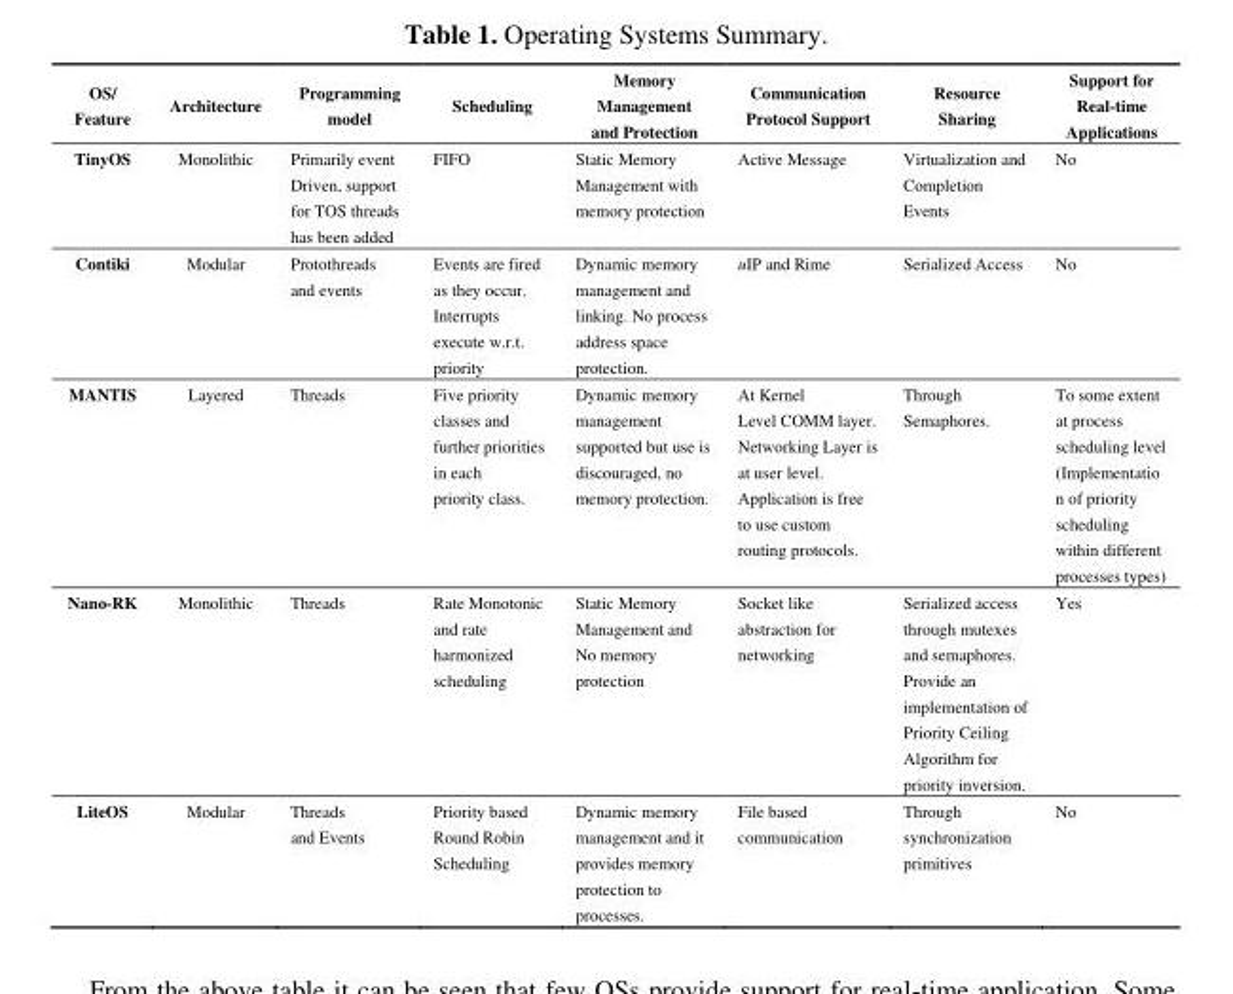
<table><thead><tr><td>OS/ Feature</td><td>Architecture</td><td>Programming model</td><td>Scheduling</td><td>Memory Management and Protection</td><td>Communication Protocol Support</td><td>Resource Sharing</td><td>Support for Real-time Applications</td></tr></thead><tbody><tr><td>TinyOS</td><td>Monolithic</td><td>Primarily event Driven, support for TOS threads has been added</td><td>FIFO</td><td>Static Memory Management with memory protection</td><td>Active Message</td><td>Virtualization and Completion Events</td><td>No</td></tr><tr><td>Contiki</td><td>Modular</td><td>Protothreads and events</td><td>Events are fired as they occur. Interrupts execute w.r.t. priority</td><td>Dynamic memory management and linking. No process address space protection.</td><td>uIP and Rime</td><td>Serialized Access</td><td>No</td></tr><tr><td>MANTIS</td><td>Layered</td><td>Threads</td><td>Five priority classes and further priorities in each priority class.</td><td>Dynamic memory management supported but use is discouraged, no memory protection.</td><td>At Kernel Level COMM layer. Networking Layer is at user level. Application is free to use custom routing protocols.</td><td>Through Semaphores.</td><td>To some extent at process scheduling level (Implementatio n of priority scheduling within different processes types)</td></tr><tr><td>Nano-RK</td><td>Monolithic</td><td>Threads</td><td>Rate Monotonic and rate harmonized scheduling</td><td>Static Memory Management and No memory protection</td><td>Socket like abstraction for networking</td><td>Serialized access through mutexes and semaphores. Provide an implementation of Priority Ceiling Algorithm for priority inversion.</td><td>Yes</td></tr><tr><td>LiteOS</td><td>Modular</td><td>Threads and Events</td><td>Priority based Round Robin Scheduling</td><td>Dynamic memory management and it provides memory protection to processes.</td><td>File based communication</td><td>Through synchronization primitives</td><td>No</td></tr></tbody></table>